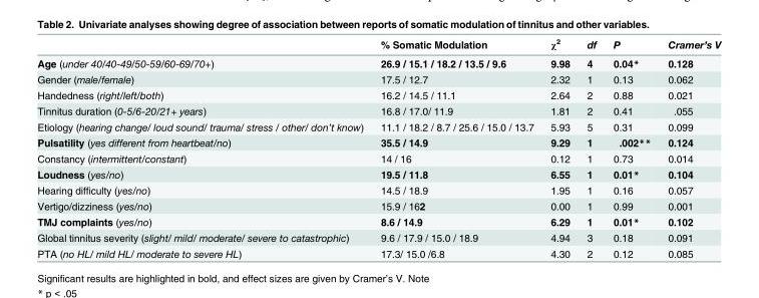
<table><thead><tr><td></td><td>% Somatic Modulation</td><td>χ<sup>2</sup></td><td>df</td><td>P</td><td>Cramer’s V</td></tr></thead><tbody><tr><td>Age (under 40/40-49/50-59/60-69/70+)</td><td>26.9 / 15.1 / 18.2 / 13.5 / 9.6</td><td>9.98</td><td>4</td><td>0.04*</td><td>0.128</td></tr><tr><td>Gender (male/female)</td><td>17.5 / 12.7</td><td>2.32</td><td>1</td><td>0.13</td><td>0.062</td></tr><tr><td>Handedness (right/left/both)</td><td>16.2 / 14.5 / 11.1</td><td>2.64</td><td>2</td><td>0.88</td><td>0.021</td></tr><tr><td>Tinnitus duration (0-5/6-20/21+ years)</td><td>16.8 / 17.0/ 11.9</td><td>1.81</td><td>2</td><td>0.41</td><td>.055</td></tr><tr><td>Etiology (hearing change/ loud sound/ trauma/ stress / other/ don’t know)</td><td>11.1 / 18.2 / 8.7 / 25.6 / 15.0 / 13.7</td><td>5.93</td><td>5</td><td>0.31</td><td>0.099</td></tr><tr><td>Pulsatility (yes different from heartbeat/no)</td><td>35.5 / 14.9</td><td>9.29</td><td>1</td><td>.002**</td><td>0.124</td></tr><tr><td>Constancy (intermittent/constant)</td><td>14 / 16</td><td>0.12</td><td>1</td><td>0.73</td><td>0.014</td></tr><tr><td>Loudness (yes/no)</td><td>19.5 / 11.8</td><td>6.55</td><td>1</td><td>0.01*</td><td>0.104</td></tr><tr><td>Hearing difficulty (yes/no)</td><td>14.5 / 18.9</td><td>1.95</td><td>1</td><td>0.16</td><td>0.057</td></tr><tr><td>Vertigo/dizziness (yes/no)</td><td>15.9 / 162</td><td>0.00</td><td>1</td><td>0.99</td><td>0.001</td></tr><tr><td>TMJ complaints (yes/no)</td><td>8.6 / 14.9</td><td>6.29</td><td>1</td><td>0.01*</td><td>0.102</td></tr><tr><td>Global tinnitus severity (slight/ mild/ moderate/ severe to catastrophic)</td><td>9.6 / 17.9 / 15.0 / 18.9</td><td>4.94</td><td>3</td><td>0.18</td><td>0.091</td></tr><tr><td>PTA (no HL/ mild HL/ moderate to severe HL)</td><td>17.3/ 15.0 /6.8</td><td>4.30</td><td>2</td><td>0.12</td><td>0.085</td></tr></tbody></table>